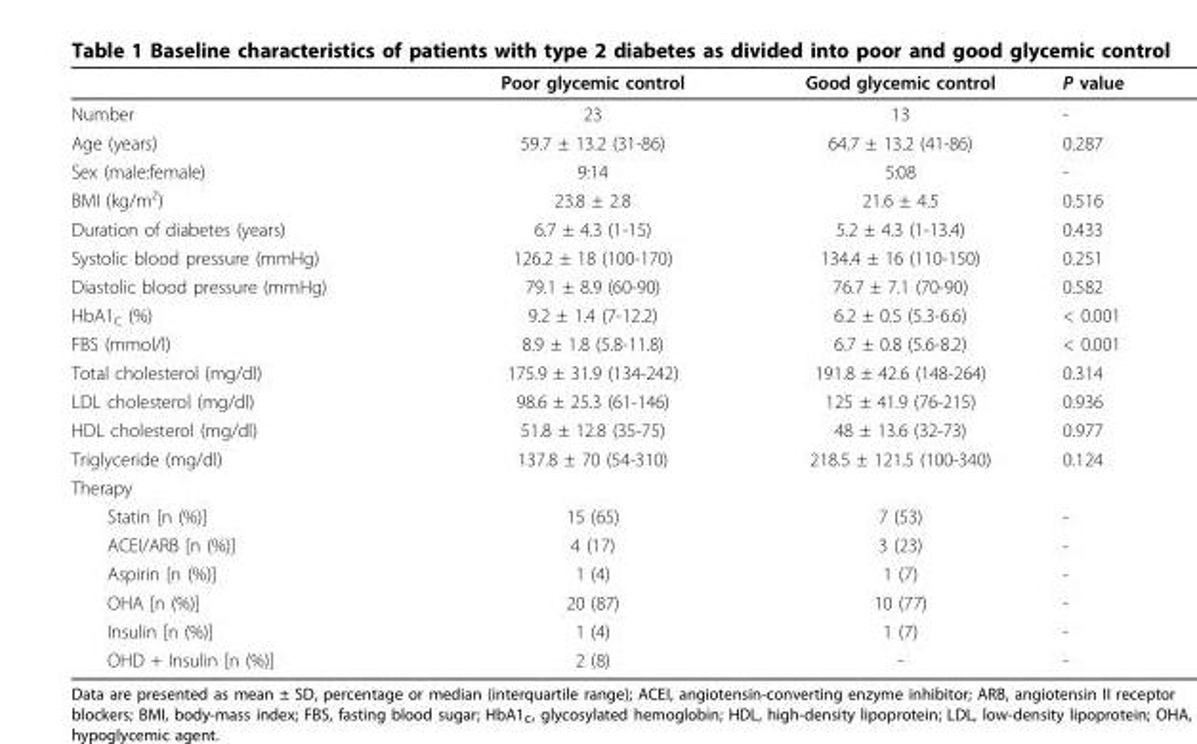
<table><thead><tr><td></td><td>Poor glycemic control</td><td>Good glycemic control</td><td>P value</td></tr></thead><tbody><tr><td>Number</td><td>23</td><td>13</td><td>-</td></tr><tr><td>Age (years)</td><td>59.7 ± 13.2 (31-86)</td><td>64.7 ± 13.2 (41-86)</td><td>0.287</td></tr><tr><td>Sex (male:female)</td><td>9:14</td><td>5:08</td><td>-</td></tr><tr><td>BMI (kg/m<sup>2</sup>)</td><td>23.8 ± 2.8</td><td>21.6 ± 4.5</td><td>0.516</td></tr><tr><td>Duration of diabetes (years)</td><td>6.7 ± 4.3 (1-15)</td><td>5.2 ± 4.3 (1-13.4)</td><td>0.433</td></tr><tr><td>Systolic blood pressure (mmHg)</td><td>126.2 ± 18 (100-170)</td><td>134.4 ± 16 (110-150)</td><td>0.251</td></tr><tr><td>Diastolic blood pressure (mmHg)</td><td>79.1 ± 8.9 (60-90)</td><td>76.7 ± 7.1 (70-90)</td><td>0.582</td></tr><tr><td>HbA1<sub>C</sub> (%)</td><td>9.2 ± 1.4 (7-12.2)</td><td>6.2 ± 0.5 (5.3-6.6)</td><td>&lt; 0.001</td></tr><tr><td>FBS (mmol/l)</td><td>8.9 ± 1.8 (5.8-11.8)</td><td>6.7 ± 0.8 (5.6-8.2)</td><td>&lt; 0.001</td></tr><tr><td>Total cholesterol (mg/dl)</td><td>175.9 ± 31.9 (134-242)</td><td>191.8 ± 42.6 (148-264)</td><td>0.314</td></tr><tr><td>LDL cholesterol (mg/dl)</td><td>98.6 ± 25.3 (61-146)</td><td>125 ± 41.9 (76-215)</td><td>0.936</td></tr><tr><td>HDL cholesterol (mg/dl)</td><td>51.8 ± 12.8 (35-75)</td><td>48 ± 13.6 (32-73)</td><td>0.977</td></tr><tr><td>Triglyceride (mg/dl)</td><td>137.8 ± 70 (54-310)</td><td>218.5 ± 121.5 (100-340)</td><td>0.124</td></tr><tr><td colspan="4">Therapy</td></tr><tr><td>Statin [n (%)]</td><td>15 (65)</td><td>7 (53)</td><td>-</td></tr><tr><td>ACEI/ARB [n (%)]</td><td>4 (17)</td><td>3 (23)</td><td>-</td></tr><tr><td>Aspirin [n (%)]</td><td>1 (4)</td><td>1 (7)</td><td>-</td></tr><tr><td>OHA [n (%)]</td><td>20 (87)</td><td>10 (77)</td><td>-</td></tr><tr><td>Insulin [n (%)]</td><td>1 (4)</td><td>1 (7)</td><td>-</td></tr><tr><td>OHD + Insulin [n (%)]</td><td>2 (8)</td><td>-</td><td>-</td></tr></tbody></table>